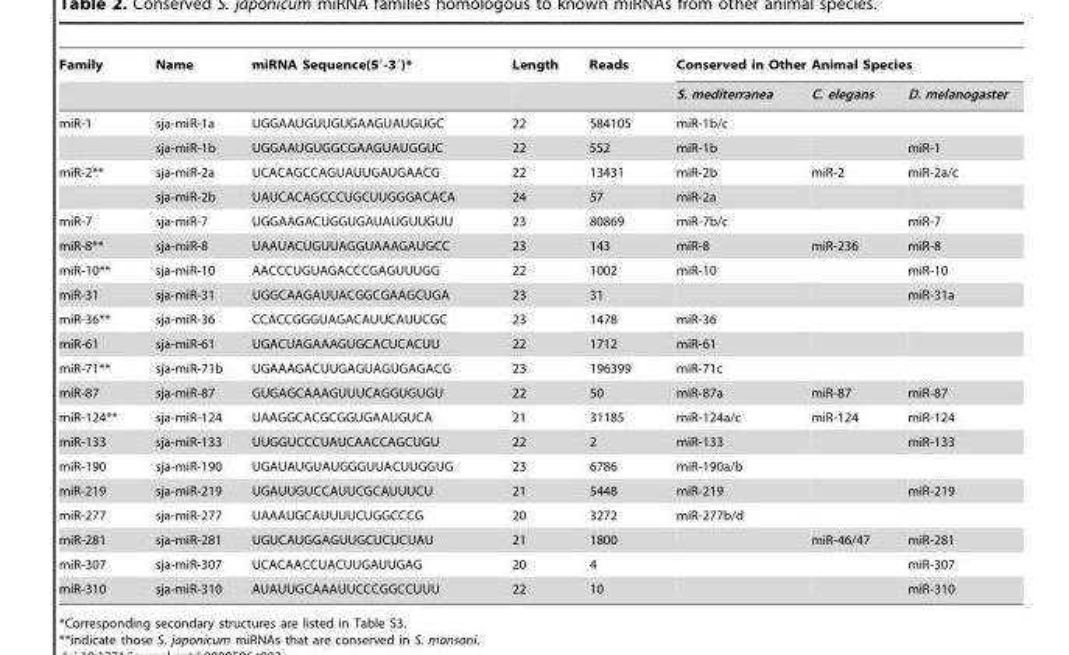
<table><thead><tr><td rowspan="2">Family</td><td rowspan="2">Name</td><td rowspan="2">miRNA Sequence(5′-3′)*</td><td rowspan="2">Length</td><td rowspan="2">Reads</td><td colspan="3">Conserved in Other Animal Species</td></tr><tr><td>S. mediterranea</td><td>C. elegans</td><td>D. melanogaster</td></tr></thead><tbody><tr><td rowspan="2">miR-1</td><td>sja-miR-1a</td><td>UGGAAUGUUGUGAAGUAUGUGC</td><td>22</td><td>584105</td><td>miR-1b/c</td><td></td><td></td></tr><tr><td>sja-miR-1b</td><td>UGGAAUGUGGCGAAGUAUGGUC</td><td>22</td><td>552</td><td>miR-1b</td><td></td><td>miR-1</td></tr><tr><td rowspan="2">miR-2**</td><td>sja-miR-2a</td><td>UCACAGCCAGUAUUGAUGAACG</td><td>22</td><td>13431</td><td>miR-2b</td><td>miR-2</td><td>miR-2a/c</td></tr><tr><td>sja-miR-2b</td><td>UAUCACAGCCCUGCUUGGGACACA</td><td>24</td><td>57</td><td>miR-2a</td><td></td><td></td></tr><tr><td>miR-7</td><td>sja-miR-7</td><td>UGGAAGACUGGUGAUAUGUUGUU</td><td>23</td><td>80869</td><td>miR-7b/c</td><td></td><td>miR-7</td></tr><tr><td>miR-8**</td><td>sja-miR-8</td><td>UAAUACUGUUAGGUAAAGAUGCC</td><td>23</td><td>143</td><td>miR-8</td><td>miR-236</td><td>miR-8</td></tr><tr><td>miR-10**</td><td>sja-miR-10</td><td>AACCCUGUAGACCCGAGUUUGG</td><td>22</td><td>1002</td><td>miR-10</td><td></td><td>miR-10</td></tr><tr><td>miR-31</td><td>sja-miR-31</td><td>UGGCAAGAUUACGGCGAAGCUGA</td><td>23</td><td>31</td><td></td><td></td><td>miR-31a</td></tr><tr><td>miR-36**</td><td>sja-miR-36</td><td>CCACCGGGUAGACAUUCAUUCGC</td><td>23</td><td>1478</td><td>miR-36</td><td></td><td></td></tr><tr><td>miR-61</td><td>sja-miR-61</td><td>UGACUAGAAAGUGCACUCACUU</td><td>22</td><td>1712</td><td>miR-61</td><td></td><td></td></tr><tr><td>miR-71**</td><td>sja-miR-71b</td><td>UGAAAGACUUGAGUAGUGAGACG</td><td>23</td><td>196399</td><td>miR-71c</td><td></td><td></td></tr><tr><td>miR-87</td><td>sja-miR-87</td><td>GUGAGCAAAGUUUCAGGUGUGU</td><td>22</td><td>50</td><td>miR-87a</td><td>miR-87</td><td>miR-87</td></tr><tr><td>miR-124**</td><td>sja-miR-124</td><td>UAAGGCACGCGGUGAAUGUCA</td><td>21</td><td>31185</td><td>miR-124a/c</td><td>miR-124</td><td>miR-124</td></tr><tr><td>miR-133</td><td>sja-miR-133</td><td>UUGGUCCCUAUCAACCAGCUGU</td><td>22</td><td>2</td><td>miR-133</td><td></td><td>miR-133</td></tr><tr><td>miR-190</td><td>sja-miR-190</td><td>UGAUAUGUAUGGGUUACUUGGUG</td><td>23</td><td>6786</td><td>miR-190a/b</td><td></td><td></td></tr><tr><td>miR-219</td><td>sja-miR-219</td><td>UGAUUGUCCAUUCGCAUUUCU</td><td>21</td><td>5448</td><td>miR-219</td><td></td><td>miR-219</td></tr><tr><td>miR-277</td><td>sja-miR-277</td><td>UAAAUGCAUUUUCUGGCCCG</td><td>20</td><td>3272</td><td>miR-277b/d</td><td></td><td></td></tr><tr><td>miR-281</td><td>sja-miR-281</td><td>UGUCAUGGAGUUGCUCUCUAU</td><td>21</td><td>1800</td><td></td><td>miR-46/47</td><td>miR-281</td></tr><tr><td>miR-307</td><td>sja-miR-307</td><td>UCACAACCUACUUGAUUGAG</td><td>20</td><td>4</td><td></td><td></td><td>miR-307</td></tr><tr><td>miR-310</td><td>sja-miR-310</td><td>AUAUUGCAAAUUCCCGGCCUUU</td><td>22</td><td>10</td><td></td><td></td><td>miR-310</td></tr></tbody></table>